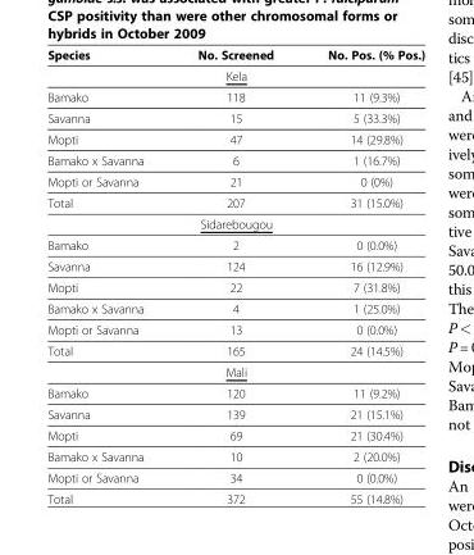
<table><tbody><tr><td>Species</td><td>No. Screened</td><td>No. Pos. (% Pos.)</td></tr><tr><td colspan="3">Kela</td></tr><tr><td>Bamako</td><td>118</td><td>11 (9.3%)</td></tr><tr><td>Savanna</td><td>15</td><td>5 (33.3%)</td></tr><tr><td>Mopti</td><td>47</td><td>14 (29.8%)</td></tr><tr><td>Bamako x Savanna</td><td>6</td><td>1 (16.7%)</td></tr><tr><td>Mopti or Savanna</td><td>21</td><td>0 (0%)</td></tr><tr><td>Total</td><td>207</td><td>31 (15.0%)</td></tr><tr><td colspan="3">Sidarebougou</td></tr><tr><td>Bamako</td><td>2</td><td>0 (0.0%)</td></tr><tr><td>Savanna</td><td>124</td><td>16 (12.9%)</td></tr><tr><td>Mopti</td><td>22</td><td>7 (31.8%)</td></tr><tr><td>Bamako x Savanna</td><td>4</td><td>1 (25.0%)</td></tr><tr><td>Mopti or Savanna</td><td>13</td><td>0 (0.0%)</td></tr><tr><td>Total</td><td>165</td><td>24 (14.5%)</td></tr><tr><td colspan="3">Mali</td></tr><tr><td>Bamako</td><td>120</td><td>11 (9.2%)</td></tr><tr><td>Savanna</td><td>139</td><td>21 (15.1%)</td></tr><tr><td>Mopti</td><td>69</td><td>21 (30.4%)</td></tr><tr><td>Bamako x Savanna</td><td>10</td><td>2 (20.0%)</td></tr><tr><td>Mopti or Savanna</td><td>34</td><td>0 (0.0%)</td></tr><tr><td>Total</td><td>372</td><td>55 (14.8%)</td></tr></tbody></table>